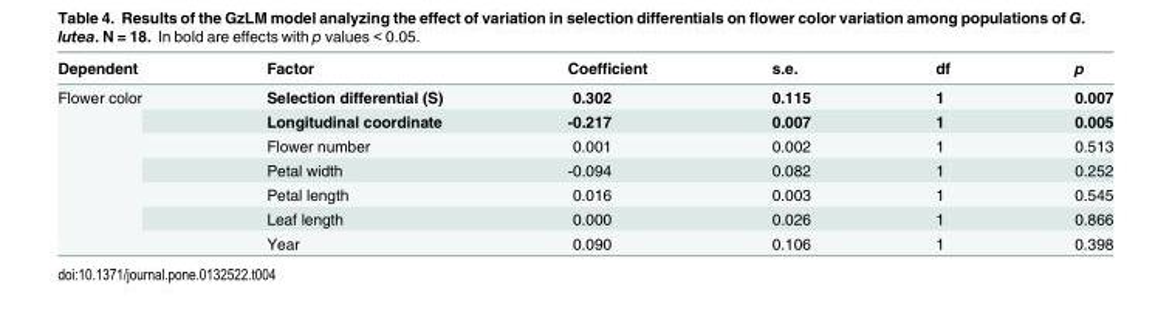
<table><thead><tr><td>Dependent</td><td>Factor</td><td>Coefficient</td><td>s.e.</td><td>df</td><td>p</td></tr></thead><tbody><tr><td rowspan="7">Flower color</td><td>Selection differential (S)</td><td>0.302</td><td>0.115</td><td>1</td><td>0.007</td></tr><tr><td>Longitudinal coordinate</td><td>-0.217</td><td>0.007</td><td>1</td><td>0.005</td></tr><tr><td>Flower number</td><td>0.001</td><td>0.002</td><td>1</td><td>0.513</td></tr><tr><td>Petal width</td><td>-0.094</td><td>0.082</td><td>1</td><td>0.252</td></tr><tr><td>Petal length</td><td>0.016</td><td>0.003</td><td>1</td><td>0.545</td></tr><tr><td>Leaf length</td><td>0.000</td><td>0.026</td><td>1</td><td>0.866</td></tr><tr><td>Year</td><td>0.090</td><td>0.106</td><td>1</td><td>0.398</td></tr></tbody></table>